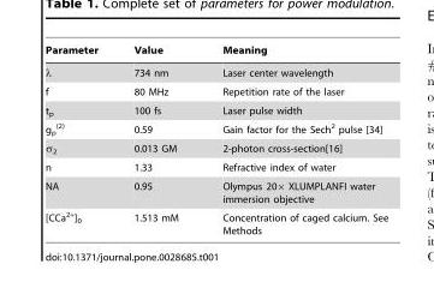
<table><thead><tr><td>Parameter</td><td>Value</td><td>Meaning</td></tr></thead><tbody><tr><td>λ</td><td>734 nm</td><td>Laser center wavelength</td></tr><tr><td>f</td><td>80 MHz</td><td>Repetition rate of the laser</td></tr><tr><td>t<sub>p</sub></td><td>100 fs</td><td>Laser pulse width</td></tr><tr><td>g<sub>p</sub> <sup>(2)</sup></td><td>0.59</td><td>Gain factor for the Sech<sup>2</sup> pulse [34]</td></tr><tr><td>σ<sub>2</sub></td><td>0.013 GM</td><td>2-photon cross-section[16]</td></tr><tr><td>n</td><td>1.33</td><td>Refractive index of water</td></tr><tr><td>NA</td><td>0.95</td><td>Olympus 20× XLUMPLANFI water immersion objective</td></tr><tr><td>[CCa<sup>2+</sup>]<sub>0</sub></td><td>1.513 mM</td><td>Concentration of caged calcium. See Methods</td></tr></tbody></table>